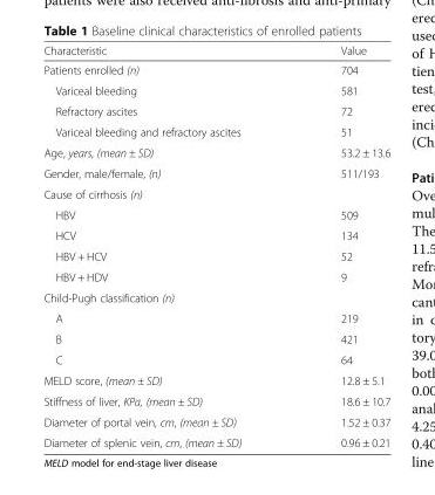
<table><thead><tr><td>Characteristic</td><td>Value</td></tr></thead><tbody><tr><td>Patients enrolled (n)</td><td>704</td></tr><tr><td>Variceal bleeding</td><td>581</td></tr><tr><td>Refractory ascites</td><td>72</td></tr><tr><td>Variceal bleeding and refractory ascites</td><td>51</td></tr><tr><td>Age, years, (mean ± SD)</td><td>53.2 ± 13.6</td></tr><tr><td>Gender, male/female, (n)</td><td>511/193</td></tr><tr><td colspan="2">Cause of cirrhosis (n)</td></tr><tr><td>HBV</td><td>509</td></tr><tr><td>HCV</td><td>134</td></tr><tr><td>HBV + HCV</td><td>52</td></tr><tr><td>HBV + HDV</td><td>9</td></tr><tr><td colspan="2">Child-Pugh classification (n)</td></tr><tr><td>A</td><td>219</td></tr><tr><td>B</td><td>421</td></tr><tr><td>C</td><td>64</td></tr><tr><td>MELD score, (mean ± SD)</td><td>12.8 ± 5.1</td></tr><tr><td>Stiffness of liver, KPa, (mean ± SD)</td><td>18.6 ± 10.7</td></tr><tr><td>Diameter of portal vein, cm, (mean ± SD)</td><td>1.52 ± 0.37</td></tr><tr><td>Diameter of splenic vein, cm, (mean ± SD)</td><td>0.96 ± 0.21</td></tr></tbody></table>